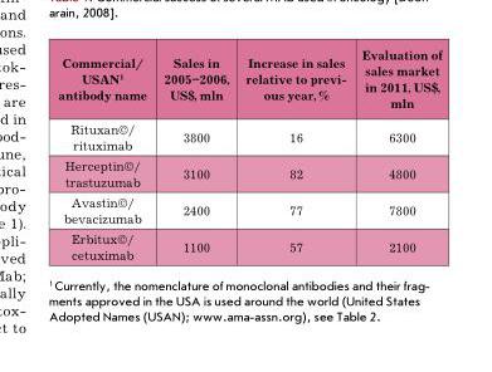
<table><thead><tr><td>Commercial/ USAN1 antibody name</td><td>Sales in 2005–2006, US$, mln</td><td>Increase in sales relative to previ- ous year, %</td><td>Evaluation of sales market in 2011, US$, mln</td></tr></thead><tbody><tr><td>rituxan©/ rituximab</td><td>3800</td><td>16</td><td>6300</td></tr><tr><td>Herceptin©/ trastuzumab</td><td>3100</td><td>82</td><td>4800</td></tr><tr><td>Avastin©/ bevacizumab</td><td>2400</td><td>77</td><td>7800</td></tr><tr><td>erbitux©/ cetuximab</td><td>1100</td><td>57</td><td>2100</td></tr><tr><td colspan="4">1 Currently, the nomenclature of monoclonal antibodies and their frag‑ ments approved in the USA is used around the world (United States Adopted Names (USAN); www.ama‑assn.org), see Table 2.</td></tr></tbody></table>